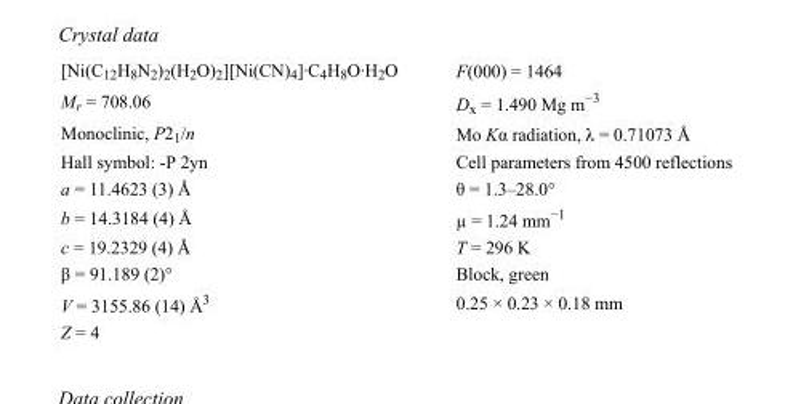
<table><tbody><tr><td>[Ni(C<sub>12</sub>H<sub>8</sub>N<sub>2</sub>)<sub>2</sub>(H<sub>2</sub>O)<sub>2</sub>][Ni(CN)<sub>4</sub>]·C<sub>4</sub>H<sub>8</sub>O·H<sub>2</sub>O</td><td>F(000) = 1464</td></tr><tr><td>M<sub>r</sub> = 708.06</td><td>D<sub>x</sub> = 1.490 Mg m<sup>−3</sup></td></tr><tr><td>Monoclinic, P2<sub>1</sub>/n</td><td>Mo Kα radiation, λ = 0.71073 Å</td></tr><tr><td>Hall symbol: -P 2yn</td><td>Cell parameters from 4500 reflections</td></tr><tr><td>a = 11.4623 (3) Å</td><td>θ = 1.3–28.0°</td></tr><tr><td>b = 14.3184 (4) Å</td><td>µ = 1.24 mm<sup>−1</sup></td></tr><tr><td>c = 19.2329 (4) Å</td><td>T = 296 K</td></tr><tr><td>β = 91.189 (2)°</td><td>Block, green</td></tr><tr><td>V = 3155.86 (14) Å<sup>3</sup></td><td>0.25 × 0.23 × 0.18 mm</td></tr><tr><td>Z = 4</td><td></td></tr></tbody></table>